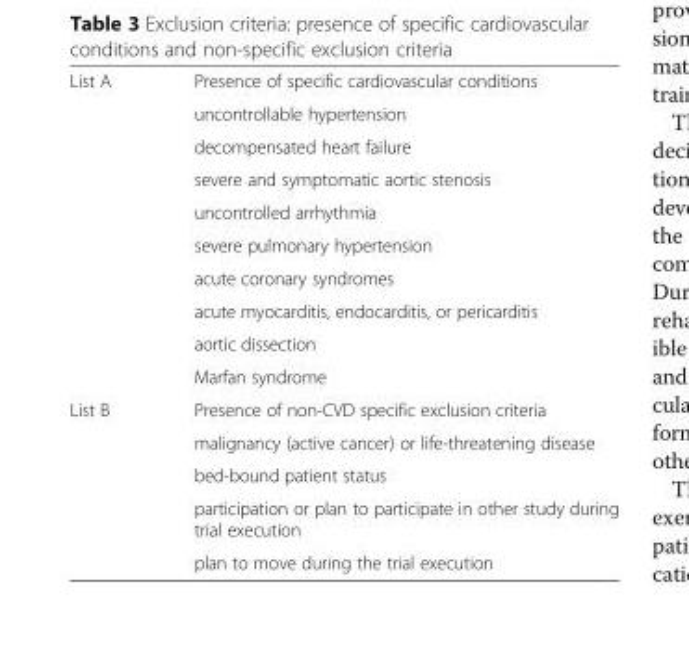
<table><tbody><tr><td rowspan="10">List A</td><td>Presence of specific cardiovascular conditions</td></tr><tr><td>uncontrollable hypertension</td></tr><tr><td>decompensated heart failure</td></tr><tr><td>severe and symptomatic aortic stenosis</td></tr><tr><td>uncontrolled arrhythmia</td></tr><tr><td>severe pulmonary hypertension</td></tr><tr><td>acute coronary syndromes</td></tr><tr><td>acute myocarditis, endocarditis, or pericarditis</td></tr><tr><td>aortic dissection</td></tr><tr><td>Marfan syndrome</td></tr><tr><td rowspan="5">List B</td><td>Presence of non-CVD specific exclusion criteria</td></tr><tr><td>malignancy (active cancer) or life-threatening disease</td></tr><tr><td>bed-bound patient status</td></tr><tr><td>participation or plan to participate in other study during trial execution</td></tr><tr><td>plan to move during the trial execution</td></tr></tbody></table>